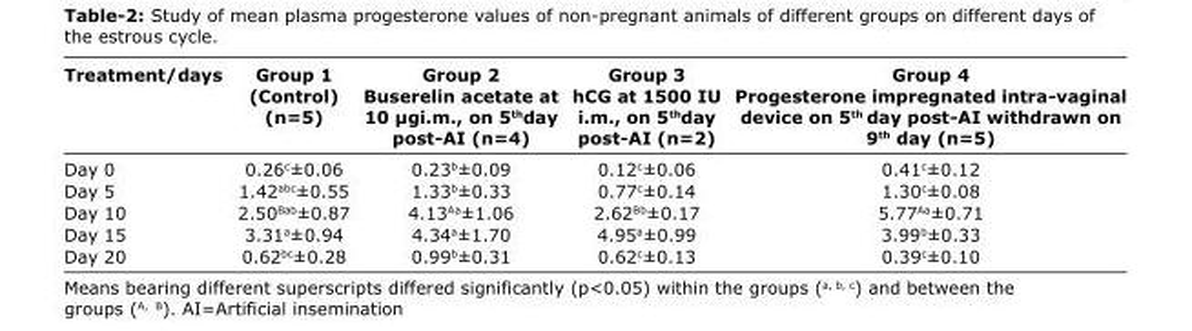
<table><thead><tr><td>Treatment/days</td><td>Group 1 (Control) (n=5)</td><td>Group 2 Buserelin acetate at 10 μgi.m., on 5<sup>th</sup>day post-AI (n=4)</td><td>Group 3 hCG at 1500 IU i.m., on 5<sup>th</sup>day post-AI (n=2)</td><td>Group 4 Progesterone impregnated intra-vaginal device on 5th day post-AI withdrawn on 9th day (n=5)</td></tr></thead><tbody><tr><td>Day 0</td><td>0.26<sup>c</sup>±0.06</td><td>0.23<sup>b</sup>±0.09</td><td>0.12<sup>c</sup>±0.06</td><td>0.41<sup>c</sup>±0.12</td></tr><tr><td>Day 5</td><td>1.42<sup>abc</sup>±0.55</td><td>1.33<sup>b</sup>±0.33</td><td>0.77<sup>c</sup>±0.14</td><td>1.30<sup>c</sup>±0.08</td></tr><tr><td>Day 10</td><td>2.50<sup>Bab</sup>±0.87</td><td>4.13<sup>Aa</sup>±1.06</td><td>2.62<sup>Bb</sup>±0.17</td><td>5.77<sup>Aa</sup>±0.71</td></tr><tr><td>Day 15</td><td>3.31<sup>a</sup>±0.94</td><td>4.34<sup>a</sup>±1.70</td><td>4.95<sup>a</sup>±0.99</td><td>3.99<sup>b</sup>±0.33</td></tr><tr><td>Day 20</td><td>0.62<sup>bc</sup>±0.28</td><td>0.99<sup>b</sup>±0.31</td><td>0.62<sup>c</sup>±0.13</td><td>0.39<sup>c</sup>±0.10</td></tr></tbody></table>